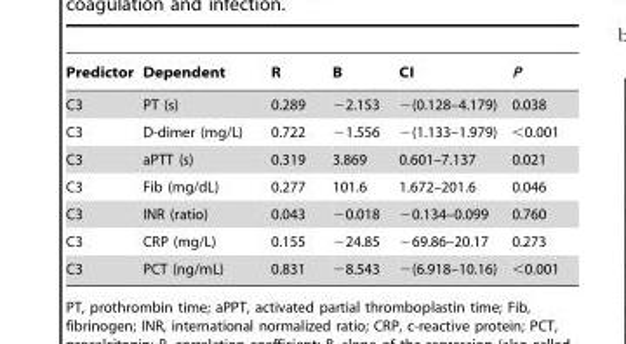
<table><thead><tr><td>Predictor</td><td>Dependent</td><td>R</td><td>B</td><td>CI</td><td>P</td></tr></thead><tbody><tr><td>C3</td><td>PT (s)</td><td>0.289</td><td>−2.153</td><td>−(0.128–4.179)</td><td>0.038</td></tr><tr><td>C3</td><td>D-dimer (mg/L)</td><td>0.722</td><td>−1.556</td><td>−(1.133–1.979)</td><td>&lt;0.001</td></tr><tr><td>C3</td><td>aPTT (s)</td><td>0.319</td><td>3.869</td><td>0.601–7.137</td><td>0.021</td></tr><tr><td>C3</td><td>Fib (mg/dL)</td><td>0.277</td><td>101.6</td><td>1.672–201.6</td><td>0.046</td></tr><tr><td>C3</td><td>INR (ratio)</td><td>0.043</td><td>−0.018</td><td>−0.134–0.099</td><td>0.760</td></tr><tr><td>C3</td><td>CRP (mg/L)</td><td>0.155</td><td>−24.85</td><td>−69.86–20.17</td><td>0.273</td></tr><tr><td>C3</td><td>PCT (ng/mL)</td><td>0.831</td><td>−8.543</td><td>−(6.918–10.16)</td><td>&lt;0.001</td></tr></tbody></table>